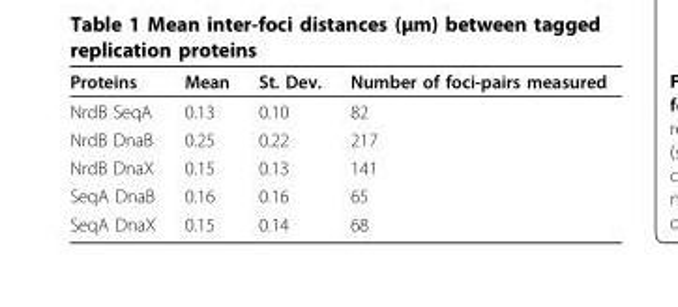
<table><thead><tr><td>Proteins</td><td>Mean</td><td>St. Dev.</td><td>Number of foci-pairs measured</td></tr></thead><tbody><tr><td>NrdB SeqA</td><td>0.13</td><td>0.10</td><td>82</td></tr><tr><td>NrdB DnaB</td><td>0.25</td><td>0.22</td><td>217</td></tr><tr><td>NrdB DnaX</td><td>0.15</td><td>0.13</td><td>141</td></tr><tr><td>SeqA DnaB</td><td>0.16</td><td>0.16</td><td>65</td></tr><tr><td>SeqA DnaX</td><td>0.15</td><td>0.14</td><td>68</td></tr></tbody></table>